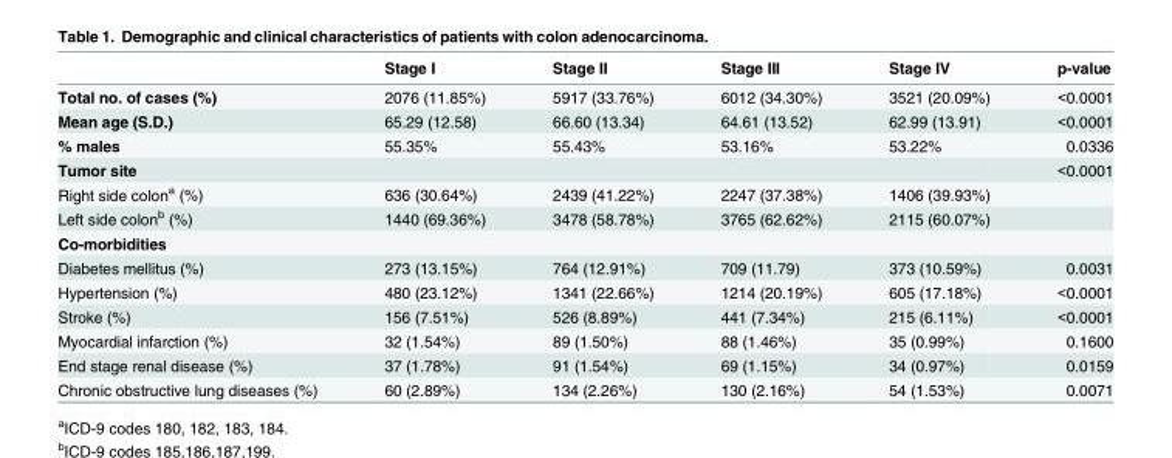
<table><thead><tr><td></td><td>Stage I</td><td>Stage II</td><td>Stage III</td><td>Stage IV</td><td>p-value</td></tr></thead><tbody><tr><td>Total no. of cases (%)</td><td>2076 (11.85%)</td><td>5917 (33.76%)</td><td>6012 (34.30%)</td><td>3521 (20.09%)</td><td>&lt;0.0001</td></tr><tr><td>Mean age (S.D.)</td><td>65.29 (12.58)</td><td>66.60 (13.34)</td><td>64.61 (13.52)</td><td>62.99 (13.91)</td><td>&lt;0.0001</td></tr><tr><td>% males</td><td>55.35%</td><td>55.43%</td><td>53.16%</td><td>53.22%</td><td>0.0336</td></tr><tr><td>Tumor site</td><td></td><td></td><td></td><td></td><td>&lt;0.0001</td></tr><tr><td>Right side colon<sup>a</sup> (%)</td><td>636 (30.64%)</td><td>2439 (41.22%)</td><td>2247 (37.38%)</td><td>1406 (39.93%)</td><td></td></tr><tr><td>Left side colon<sup>b</sup> (%)</td><td>1440 (69.36%)</td><td>3478 (58.78%)</td><td>3765 (62.62%)</td><td>2115 (60.07%)</td><td></td></tr><tr><td colspan="6">Co-morbidities</td></tr><tr><td>Diabetes mellitus (%)</td><td>273 (13.15%)</td><td>764 (12.91%)</td><td>709 (11.79)</td><td>373 (10.59%)</td><td>0.0031</td></tr><tr><td>Hypertension (%)</td><td>480 (23.12%)</td><td>1341 (22.66%)</td><td>1214 (20.19%)</td><td>605 (17.18%)</td><td>&lt;0.0001</td></tr><tr><td>Stroke (%)</td><td>156 (7.51%)</td><td>526 (8.89%)</td><td>441 (7.34%)</td><td>215 (6.11%)</td><td>&lt;0.0001</td></tr><tr><td>Myocardial infarction (%)</td><td>32 (1.54%)</td><td>89 (1.50%)</td><td>88 (1.46%)</td><td>35 (0.99%)</td><td>0.1600</td></tr><tr><td>End stage renal disease (%)</td><td>37 (1.78%)</td><td>91 (1.54%)</td><td>69 (1.15%)</td><td>34 (0.97%)</td><td>0.0159</td></tr><tr><td>Chronic obstructive lung diseases (%)</td><td>60 (2.89%)</td><td>134 (2.26%)</td><td>130 (2.16%)</td><td>54 (1.53%)</td><td>0.0071</td></tr></tbody></table>